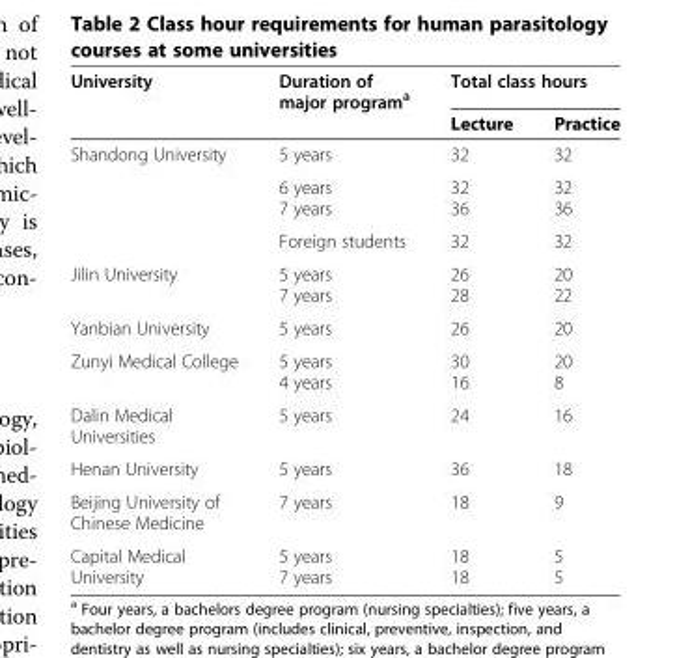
<table><thead><tr><td rowspan="2">University</td><td rowspan="2">Duration of major program<sup>a</sup></td><td colspan="2">Total class hours</td></tr><tr><td>Lecture</td><td>Practice</td></tr></thead><tbody><tr><td rowspan="3">Shandong University</td><td>5 years</td><td>32</td><td>32</td></tr><tr><td>6 years 7 years</td><td>32 36</td><td>32 36</td></tr><tr><td>Foreign students</td><td>32</td><td>32</td></tr><tr><td>Jilin University</td><td>5 years 7 years</td><td>26 28</td><td>20 22</td></tr><tr><td>Yanbian University</td><td>5 years</td><td>26</td><td>20</td></tr><tr><td>Zunyi Medical College</td><td>5 years 4 years</td><td>30 16</td><td>20 8</td></tr><tr><td>Dalin Medical Universities</td><td>5 years</td><td>24</td><td>16</td></tr><tr><td>Henan University</td><td>5 years</td><td>36</td><td>18</td></tr><tr><td>Beijing University of Chinese Medicine</td><td>7 years</td><td>18</td><td>9</td></tr><tr><td>Capital Medical University</td><td>5 years 7 years</td><td>18 18</td><td>5 5</td></tr></tbody></table>